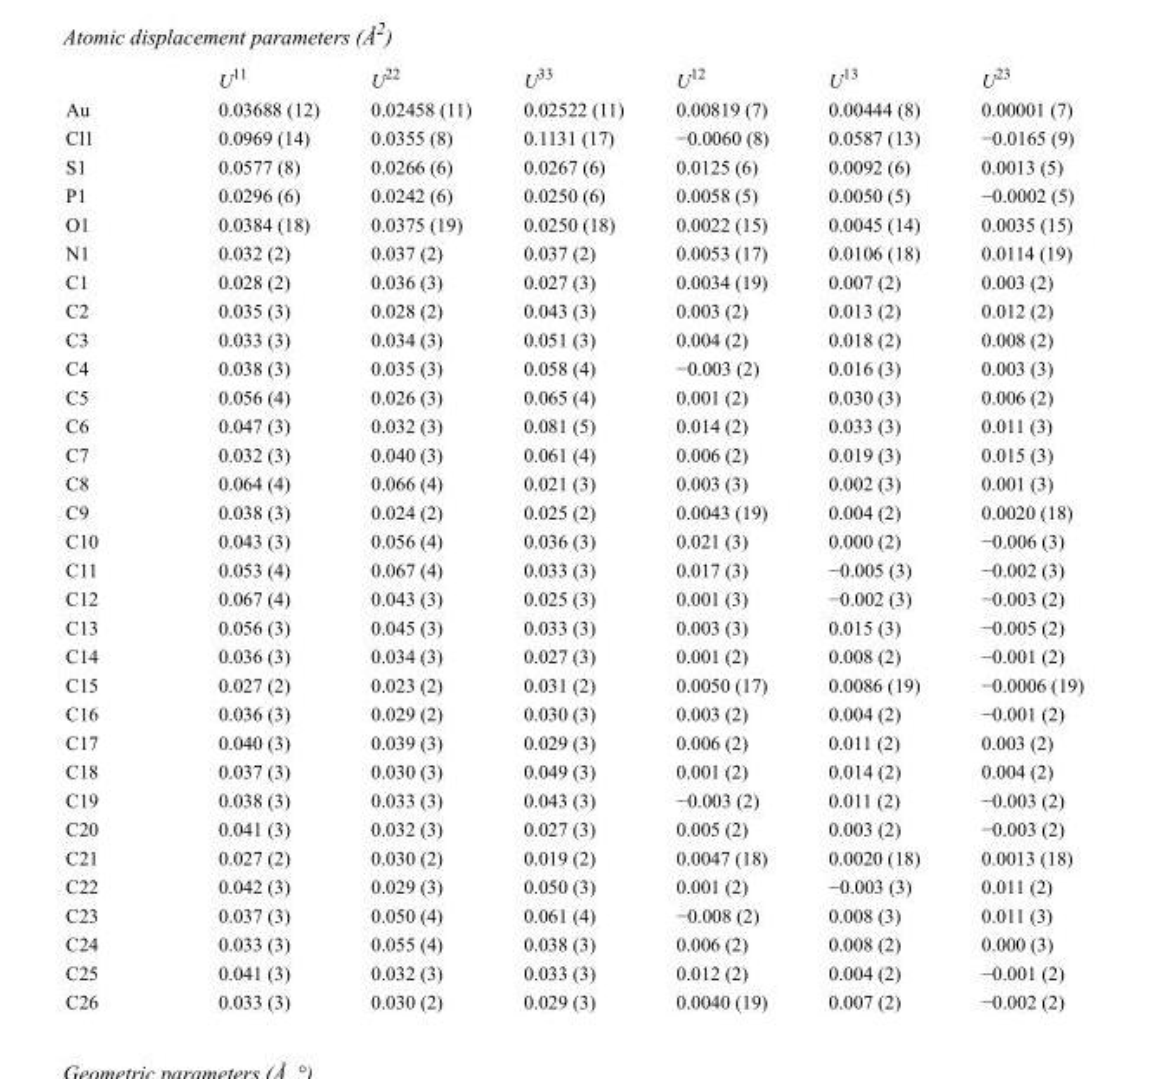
<table><thead><tr><td></td><td>U<sup>11</sup></td><td>U<sup>22</sup></td><td>U<sup>33</sup></td><td>U<sup>12</sup></td><td>U<sup>13</sup></td><td>U<sup>23</sup></td></tr></thead><tbody><tr><td>Au</td><td>0.03688 (12)</td><td>0.02458 (11)</td><td>0.02522 (11)</td><td>0.00819 (7)</td><td>0.00444 (8)</td><td>0.00001 (7)</td></tr><tr><td>Cl1</td><td>0.0969 (14)</td><td>0.0355 (8)</td><td>0.1131 (17)</td><td>−0.0060 (8)</td><td>0.0587 (13)</td><td>−0.0165 (9)</td></tr><tr><td>S1</td><td>0.0577 (8)</td><td>0.0266 (6)</td><td>0.0267 (6)</td><td>0.0125 (6)</td><td>0.0092 (6)</td><td>0.0013 (5)</td></tr><tr><td>P1</td><td>0.0296 (6)</td><td>0.0242 (6)</td><td>0.0250 (6)</td><td>0.0058 (5)</td><td>0.0050 (5)</td><td>−0.0002 (5)</td></tr><tr><td>O1</td><td>0.0384 (18)</td><td>0.0375 (19)</td><td>0.0250 (18)</td><td>0.0022 (15)</td><td>0.0045 (14)</td><td>0.0035 (15)</td></tr><tr><td>N1</td><td>0.032 (2)</td><td>0.037 (2)</td><td>0.037 (2)</td><td>0.0053 (17)</td><td>0.0106 (18)</td><td>0.0114 (19)</td></tr><tr><td>C1</td><td>0.028 (2)</td><td>0.036 (3)</td><td>0.027 (3)</td><td>0.0034 (19)</td><td>0.007 (2)</td><td>0.003 (2)</td></tr><tr><td>C2</td><td>0.035 (3)</td><td>0.028 (2)</td><td>0.043 (3)</td><td>0.003 (2)</td><td>0.013 (2)</td><td>0.012 (2)</td></tr><tr><td>C3</td><td>0.033 (3)</td><td>0.034 (3)</td><td>0.051 (3)</td><td>0.004 (2)</td><td>0.018 (2)</td><td>0.008 (2)</td></tr><tr><td>C4</td><td>0.038 (3)</td><td>0.035 (3)</td><td>0.058 (4)</td><td>−0.003 (2)</td><td>0.016 (3)</td><td>0.003 (3)</td></tr><tr><td>C5</td><td>0.056 (4)</td><td>0.026 (3)</td><td>0.065 (4)</td><td>0.001 (2)</td><td>0.030 (3)</td><td>0.006 (2)</td></tr><tr><td>C6</td><td>0.047 (3)</td><td>0.032 (3)</td><td>0.081 (5)</td><td>0.014 (2)</td><td>0.033 (3)</td><td>0.011 (3)</td></tr><tr><td>C7</td><td>0.032 (3)</td><td>0.040 (3)</td><td>0.061 (4)</td><td>0.006 (2)</td><td>0.019 (3)</td><td>0.015 (3)</td></tr><tr><td>C8</td><td>0.064 (4)</td><td>0.066 (4)</td><td>0.021 (3)</td><td>0.003 (3)</td><td>0.002 (3)</td><td>0.001 (3)</td></tr><tr><td>C9</td><td>0.038 (3)</td><td>0.024 (2)</td><td>0.025 (2)</td><td>0.0043 (19)</td><td>0.004 (2)</td><td>0.0020 (18)</td></tr><tr><td>C10</td><td>0.043 (3)</td><td>0.056 (4)</td><td>0.036 (3)</td><td>0.021 (3)</td><td>0.000 (2)</td><td>−0.006 (3)</td></tr><tr><td>C11</td><td>0.053 (4)</td><td>0.067 (4)</td><td>0.033 (3)</td><td>0.017 (3)</td><td>−0.005 (3)</td><td>−0.002 (3)</td></tr><tr><td>C12</td><td>0.067 (4)</td><td>0.043 (3)</td><td>0.025 (3)</td><td>0.001 (3)</td><td>−0.002 (3)</td><td>−0.003 (2)</td></tr><tr><td>C13</td><td>0.056 (3)</td><td>0.045 (3)</td><td>0.033 (3)</td><td>0.003 (3)</td><td>0.015 (3)</td><td>−0.005 (2)</td></tr><tr><td>C14</td><td>0.036 (3)</td><td>0.034 (3)</td><td>0.027 (3)</td><td>0.001 (2)</td><td>0.008 (2)</td><td>−0.001 (2)</td></tr><tr><td>C15</td><td>0.027 (2)</td><td>0.023 (2)</td><td>0.031 (2)</td><td>0.0050 (17)</td><td>0.0086 (19)</td><td>−0.0006 (19)</td></tr><tr><td>C16</td><td>0.036 (3)</td><td>0.029 (2)</td><td>0.030 (3)</td><td>0.003 (2)</td><td>0.004 (2)</td><td>−0.001 (2)</td></tr><tr><td>C17</td><td>0.040 (3)</td><td>0.039 (3)</td><td>0.029 (3)</td><td>0.006 (2)</td><td>0.011 (2)</td><td>0.003 (2)</td></tr><tr><td>C18</td><td>0.037 (3)</td><td>0.030 (3)</td><td>0.049 (3)</td><td>0.001 (2)</td><td>0.014 (2)</td><td>0.004 (2)</td></tr><tr><td>C19</td><td>0.038 (3)</td><td>0.033 (3)</td><td>0.043 (3)</td><td>−0.003 (2)</td><td>0.011 (2)</td><td>−0.003 (2)</td></tr><tr><td>C20</td><td>0.041 (3)</td><td>0.032 (3)</td><td>0.027 (3)</td><td>0.005 (2)</td><td>0.003 (2)</td><td>−0.003 (2)</td></tr><tr><td>C21</td><td>0.027 (2)</td><td>0.030 (2)</td><td>0.019 (2)</td><td>0.0047 (18)</td><td>0.0020 (18)</td><td>0.0013 (18)</td></tr><tr><td>C22</td><td>0.042 (3)</td><td>0.029 (3)</td><td>0.050 (3)</td><td>0.001 (2)</td><td>−0.003 (3)</td><td>0.011 (2)</td></tr><tr><td>C23</td><td>0.037 (3)</td><td>0.050 (4)</td><td>0.061 (4)</td><td>−0.008 (2)</td><td>0.008 (3)</td><td>0.011 (3)</td></tr><tr><td>C24</td><td>0.033 (3)</td><td>0.055 (4)</td><td>0.038 (3)</td><td>0.006 (2)</td><td>0.008 (2)</td><td>0.000 (3)</td></tr><tr><td>C25</td><td>0.041 (3)</td><td>0.032 (3)</td><td>0.033 (3)</td><td>0.012 (2)</td><td>0.004 (2)</td><td>−0.001 (2)</td></tr><tr><td>C26</td><td>0.033 (3)</td><td>0.030 (2)</td><td>0.029 (3)</td><td>0.0040 (19)</td><td>0.007 (2)</td><td>−0.002 (2)</td></tr></tbody></table>